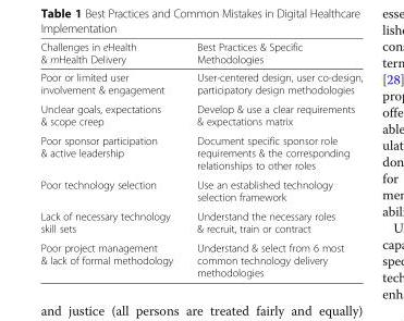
<table><thead><tr><td>Challenges in eHealth &amp; mHealth Delivery</td><td>Best Practices &amp; Specific Methodologies</td></tr></thead><tbody><tr><td>Poor or limited user involvement &amp; engagement</td><td>User-centered design, user co-design, participatory design methodologies</td></tr><tr><td>Unclear goals, expectations &amp; scope creep</td><td>Develop &amp; use a clear requirements &amp; expectations matrix</td></tr><tr><td>Poor sponsor participation &amp; active leadership</td><td>Document specific sponsor role requirements &amp; the corresponding relationships to other roles</td></tr><tr><td>Poor technology selection</td><td>Use an established technology selection framework</td></tr><tr><td>Lack of necessary technology skill sets</td><td>Understand the necessary roles &amp; recruit, train or contract</td></tr><tr><td>Poor project management &amp; lack of formal methodology</td><td>Understand &amp; select from 6 most common technology delivery methodologies</td></tr></tbody></table>